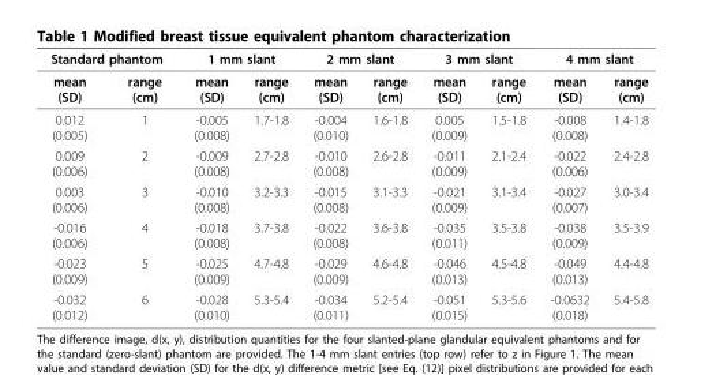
<table><thead><tr><td colspan="2">Standard phantom</td><td colspan="2">1 mm slant</td><td colspan="2">2 mm slant</td><td colspan="2">3 mm slant</td><td colspan="2">4 mm slant</td></tr><tr><td>mean (SD)</td><td>range (cm)</td><td>mean (SD)</td><td>range (cm)</td><td>mean (SD)</td><td>range (cm)</td><td>mean (SD)</td><td>range (cm)</td><td>mean (SD)</td><td>range (cm)</td></tr></thead><tbody><tr><td>0.012 (0.005)</td><td>1</td><td>-0.005 (0.008)</td><td>1.7-1.8</td><td>-0.004 (0.010)</td><td>1.6-1.8</td><td>0.005 (0.009)</td><td>1.5-1.8</td><td>-0.008 (0.008)</td><td>1.4-1.8</td></tr><tr><td>0.009 (0.006)</td><td>2</td><td>-0.009 (0.008)</td><td>2.7-2.8</td><td>-0.010 (0.008)</td><td>2.6-2.8</td><td>-0.011 (0.009)</td><td>2.1-2.4</td><td>-0.022 (0.006)</td><td>2.4-2.8</td></tr><tr><td>0.003 (0.006)</td><td>3</td><td>-0.010 (0.008)</td><td>3.2-3.3</td><td>-0.015 (0.008)</td><td>3.1-3.3</td><td>-0.021 (0.009)</td><td>3.1-3.4</td><td>-0.027 (0.007)</td><td>3.0-3.4</td></tr><tr><td>-0.016 (0.006)</td><td>4</td><td>-0.018 (0.008)</td><td>3.7-3.8</td><td>-0.022 (0.008)</td><td>3.6-3.8</td><td>-0.035 (0.011)</td><td>3.5-3.8</td><td>-0.038 (0.009)</td><td>3.5-3.9</td></tr><tr><td>-0.023 (0.009)</td><td>5</td><td>-0.025 (0.009)</td><td>4.7-4.8</td><td>-0.029 (0.009)</td><td>4.6-4.8</td><td>-0.046 (0.013)</td><td>4.5-4.8</td><td>-0.049 (0.013)</td><td>4.4-4.8</td></tr><tr><td>-0.032 (0.012)</td><td>6</td><td>-0.028 (0.010)</td><td>5.3-5.4</td><td>-0.034 (0.011)</td><td>5.2-5.4</td><td>-0.051 (0.015)</td><td>5.3-5.6</td><td>-0.0632 (0.018)</td><td>5.4-5.8</td></tr></tbody></table>